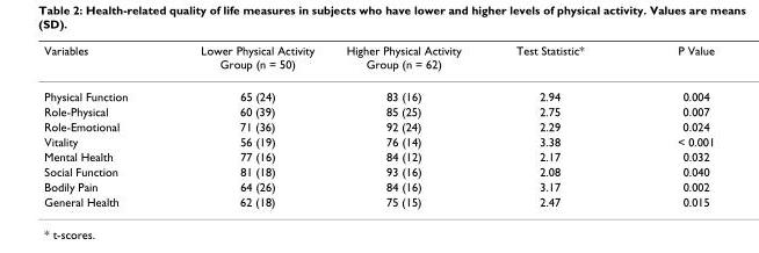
<table><thead><tr><td>Variables</td><td>Lower Physical Activity Group (n = 50)</td><td>Higher Physical Activity Group (n = 62)</td><td>Test Statistic*</td><td>P Value</td></tr></thead><tbody><tr><td>Physical Function</td><td>65 (24)</td><td>83 (16)</td><td>2.94</td><td>0.004</td></tr><tr><td>Role-Physical</td><td>60 (39)</td><td>85 (25)</td><td>2.75</td><td>0.007</td></tr><tr><td>Role-Emotional</td><td>71 (36)</td><td>92 (24)</td><td>2.29</td><td>0.024</td></tr><tr><td>Vitality</td><td>56 (19)</td><td>76 (14)</td><td>3.38</td><td>&lt; 0.001</td></tr><tr><td>Mental Health</td><td>77 (16)</td><td>84 (12)</td><td>2.17</td><td>0.032</td></tr><tr><td>Social Function</td><td>81 (18)</td><td>93 (16)</td><td>2.08</td><td>0.040</td></tr><tr><td>Bodily Pain</td><td>64 (26)</td><td>84 (16)</td><td>3.17</td><td>0.002</td></tr><tr><td>General Health</td><td>62 (18)</td><td>75 (15)</td><td>2.47</td><td>0.015</td></tr></tbody></table>